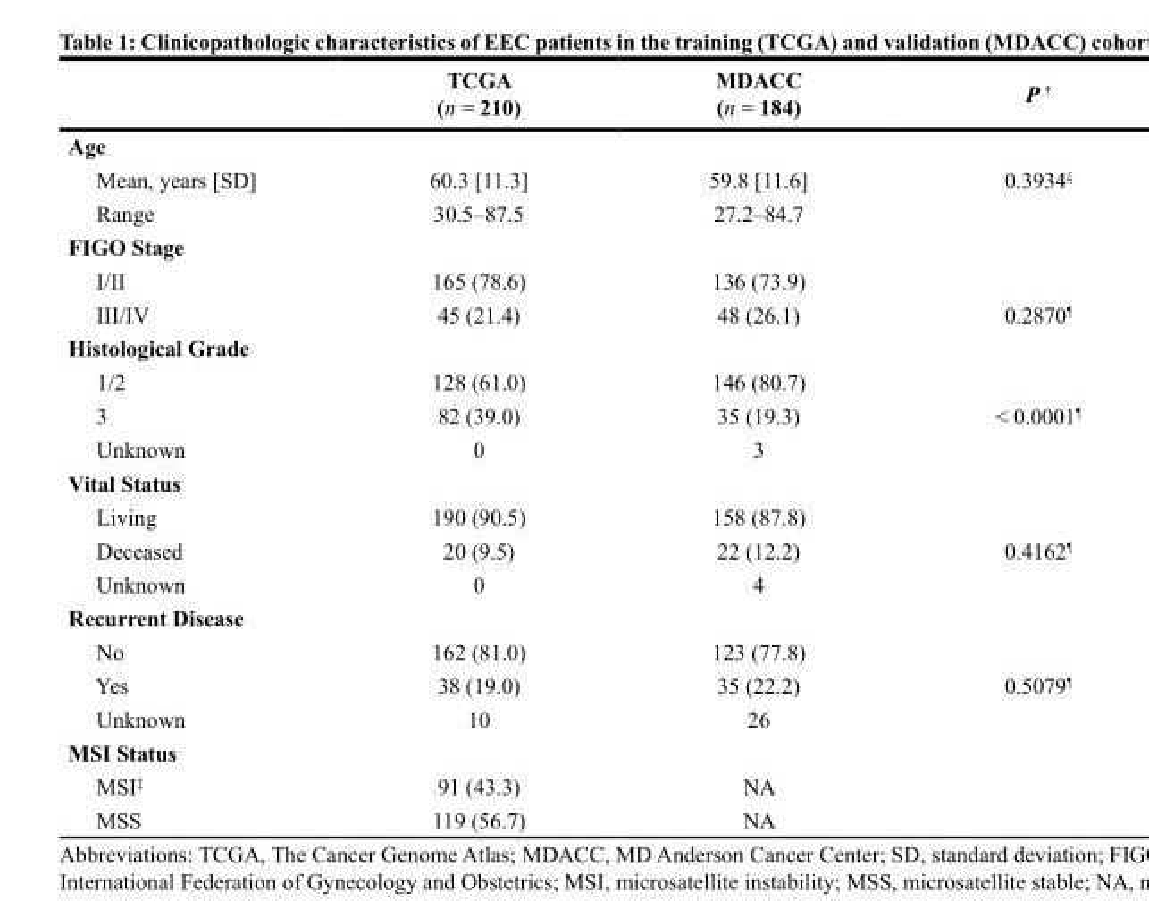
<table><thead><tr><td></td><td>TCGA (n = 210)</td><td>MDACC (n = 184)</td><td>P <sup>†</sup></td></tr></thead><tbody><tr><td colspan="4">Age</td></tr><tr><td>Mean, years [SD]</td><td>60.3 [11.3]</td><td>59.8 [11.6]</td><td>0.3934<sup>ξ</sup></td></tr><tr><td>Range</td><td>30.5–87.5</td><td>27.2–84.7</td><td></td></tr><tr><td colspan="4">FIGO Stage</td></tr><tr><td>I/II</td><td>165 (78.6)</td><td>136 (73.9)</td><td></td></tr><tr><td>III/IV</td><td>45 (21.4)</td><td>48 (26.1)</td><td>0.2870<sup>¶</sup></td></tr><tr><td colspan="4">Histological Grade</td></tr><tr><td>1/2</td><td>128 (61.0)</td><td>146 (80.7)</td><td></td></tr><tr><td>3</td><td>82 (39.0)</td><td>35 (19.3)</td><td>&lt; 0.0001<sup>¶</sup></td></tr><tr><td>Unknown</td><td>0</td><td>3</td><td></td></tr><tr><td colspan="4">Vital Status</td></tr><tr><td>Living</td><td>190 (90.5)</td><td>158 (87.8)</td><td></td></tr><tr><td>Deceased</td><td>20 (9.5)</td><td>22 (12.2)</td><td>0.4162<sup>¶</sup></td></tr><tr><td>Unknown</td><td>0</td><td>4</td><td></td></tr><tr><td colspan="4">Recurrent Disease</td></tr><tr><td>No</td><td>162 (81.0)</td><td>123 (77.8)</td><td></td></tr><tr><td>Yes</td><td>38 (19.0)</td><td>35 (22.2)</td><td>0.5079<sup>¶</sup></td></tr><tr><td>Unknown</td><td>10</td><td>26</td><td></td></tr><tr><td colspan="4">MSI Status</td></tr><tr><td>MSI<sup>‡</sup></td><td>91 (43.3)</td><td>NA</td><td></td></tr><tr><td>MSS</td><td>119 (56.7)</td><td>NA</td><td></td></tr></tbody></table>